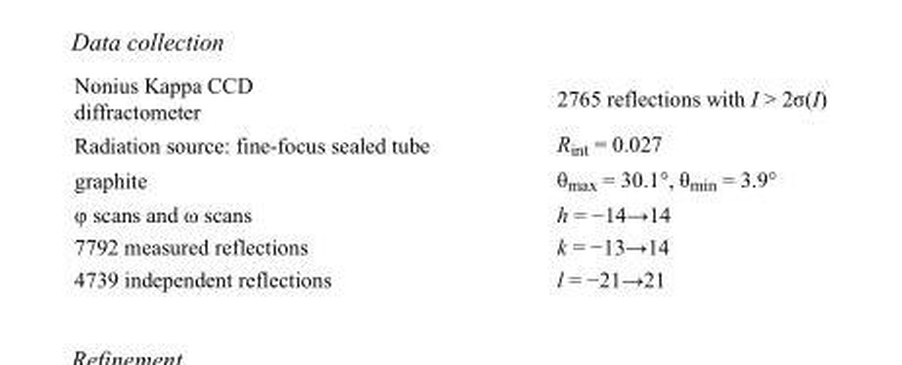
<table><tbody><tr><td>Nonius Kappa CCD diffractometer</td><td>2765 reflections with I &gt; 2σ(I)</td></tr><tr><td>Radiation source: fine-focus sealed tube</td><td>R<sub>int</sub> = 0.027</td></tr><tr><td>graphite</td><td>θ<sub>max</sub> = 30.1°, θ<sub>min</sub> = 3.9°</td></tr><tr><td>φ scans and ω scans</td><td>h = −14→14</td></tr><tr><td>7792 measured reflections</td><td>k = −13→14</td></tr><tr><td>4739 independent reflections</td><td>l = −21→21</td></tr></tbody></table>